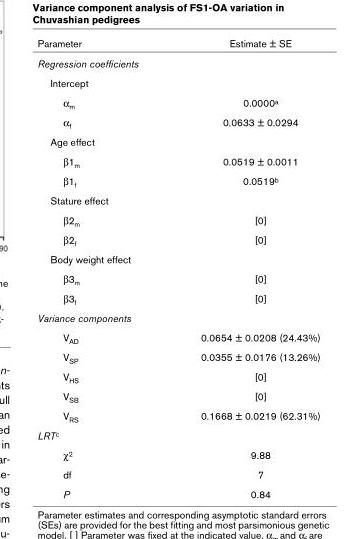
<table><thead><tr><td>Parameter</td><td>Estimate ± SE</td></tr></thead><tbody><tr><td colspan="2">Regression coefficients</td></tr><tr><td colspan="2">Intercept</td></tr><tr><td>αm</td><td>0.0000a</td></tr><tr><td>αf</td><td>0.0633 ± 0.0294</td></tr><tr><td colspan="2">Age effect</td></tr><tr><td>β1m</td><td>0.0519 ± 0.0011</td></tr><tr><td>β1f</td><td>0.0519b</td></tr><tr><td colspan="2">Stature effect</td></tr><tr><td>β2m</td><td>[0]</td></tr><tr><td>β2f</td><td>[0]</td></tr><tr><td colspan="2">Body weight effect</td></tr><tr><td>β3m</td><td>[0]</td></tr><tr><td>β3f</td><td>[0]</td></tr><tr><td colspan="2">Variance components</td></tr><tr><td>VAD</td><td>0.0654 ± 0.0208 (24.43%)</td></tr><tr><td>VSP</td><td>0.0355 ± 0.0176 (13.26%)</td></tr><tr><td>VHS</td><td>[0]</td></tr><tr><td>VSB</td><td>[0]</td></tr><tr><td>VRS</td><td>0.1668 ± 0.0219 (62.31%)</td></tr><tr><td colspan="2">LRTc</td></tr><tr><td>χ2</td><td>9.88</td></tr><tr><td>df</td><td>7</td></tr><tr><td>P</td><td>0.84</td></tr></tbody></table>